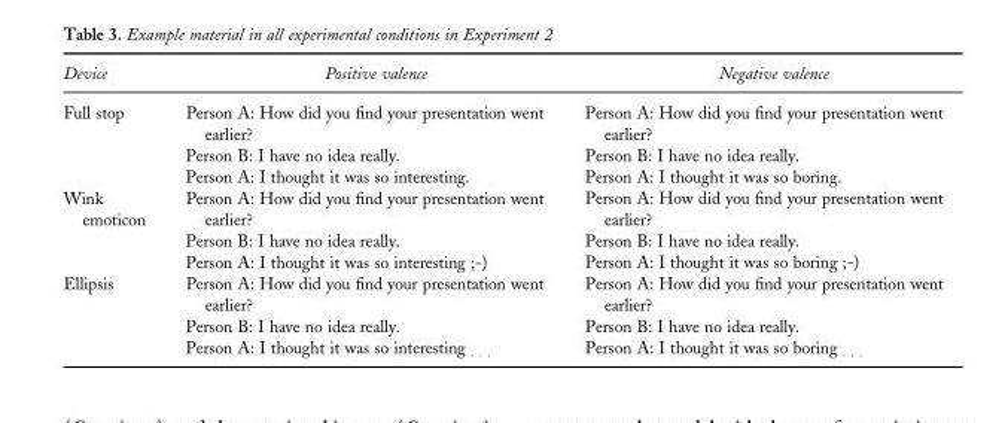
<table><thead><tr><td>Device</td><td>Positive valence</td><td>Negative valence</td></tr></thead><tbody><tr><td>Full stop</td><td>Person A: How did you find your presentation went earlier? Person B: I have no idea really. Person A: I thought it was so interesting.</td><td>Person A: How did you find your presentation went earlier? Person B: I have no idea really. Person A: I thought it was so boring.</td></tr><tr><td>Wink emoticon</td><td>Person A: How did you find your presentation went earlier? Person B: I have no idea really. Person A: I thought it was so interesting ;-)</td><td>Person A: How did you find your presentation went earlier? Person B: I have no idea really. Person A: I thought it was so boring ;-)</td></tr><tr><td>Ellipsis</td><td>Person A: How did you find your presentation went earlier? Person B: I have no idea really. Person A: I thought it was so interesting <sub>. . .</sub></td><td>Person A: How did you find your presentation went earlier? Person B: I have no idea really. Person A: I thought it was so boring <sub>. . .</sub></td></tr></tbody></table>